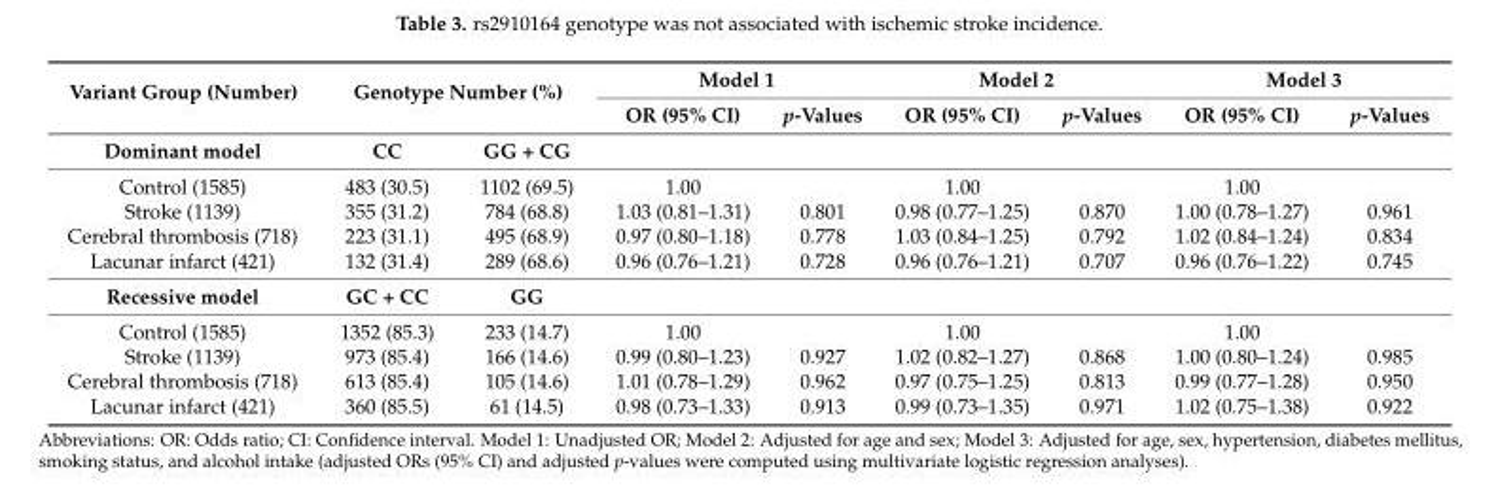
<table><thead><tr><td rowspan="3">Variant Group (Number) Dominant model</td><td rowspan="2" colspan="2">Genotype Number (%)</td><td colspan="2">Model 1</td><td colspan="2">Model 2</td><td colspan="2">Model 3</td></tr><tr><td rowspan="2">OR (95% CI)</td><td rowspan="2">p-Values</td><td rowspan="2">OR (95% CI)</td><td rowspan="2">p-Values</td><td rowspan="2">OR (95% CI)</td><td rowspan="2">p-Values</td></tr><tr><td>CC</td><td>GG + CG</td></tr></thead><tbody><tr><td>Control (1585)</td><td>483 (30.5)</td><td>1102 (69.5)</td><td>1.00</td><td></td><td>1.00</td><td></td><td>1.00</td><td></td></tr><tr><td>Stroke (1139)</td><td>355 (31.2)</td><td>784 (68.8)</td><td>1.03 (0.81–1.31)</td><td>0.801</td><td>0.98 (0.77–1.25)</td><td>0.870</td><td>1.00 (0.78–1.27)</td><td>0.961</td></tr><tr><td>Cerebral thrombosis (718)</td><td>223 (31.1)</td><td>495 (68.9)</td><td>0.97 (0.80–1.18)</td><td>0.778</td><td>1.03 (0.84–1.25)</td><td>0.792</td><td>1.02 (0.84–1.24)</td><td>0.834</td></tr><tr><td>Lacunar infarct (421)</td><td>132 (31.4)</td><td>289 (68.6)</td><td>0.96 (0.76–1.21)</td><td>0.728</td><td>0.96 (0.76–1.21)</td><td>0.707</td><td>0.96 (0.76–1.22)</td><td>0.745</td></tr><tr><td>Recessive model</td><td>GC + CC</td><td>GG</td><td></td><td></td><td></td><td></td><td></td><td></td></tr><tr><td>Control (1585)</td><td>1352 (85.3)</td><td>233 (14.7)</td><td>1.00</td><td></td><td>1.00</td><td></td><td>1.00</td><td></td></tr><tr><td>Stroke (1139)</td><td>973 (85.4)</td><td>166 (14.6)</td><td>0.99 (0.80–1.23)</td><td>0.927</td><td>1.02 (0.82–1.27)</td><td>0.868</td><td>1.00 (0.80–1.24)</td><td>0.985</td></tr><tr><td>Cerebral thrombosis (718)</td><td>613 (85.4)</td><td>105 (14.6)</td><td>1.01 (0.78–1.29)</td><td>0.962</td><td>0.97 (0.75–1.25)</td><td>0.813</td><td>0.99 (0.77–1.28)</td><td>0.950</td></tr><tr><td>Lacunar infarct (421)</td><td>360 (85.5)</td><td>61 (14.5)</td><td>0.98 (0.73–1.33)</td><td>0.913</td><td>0.99 (0.73–1.35)</td><td>0.971</td><td>1.02 (0.75–1.38)</td><td>0.922</td></tr></tbody></table>